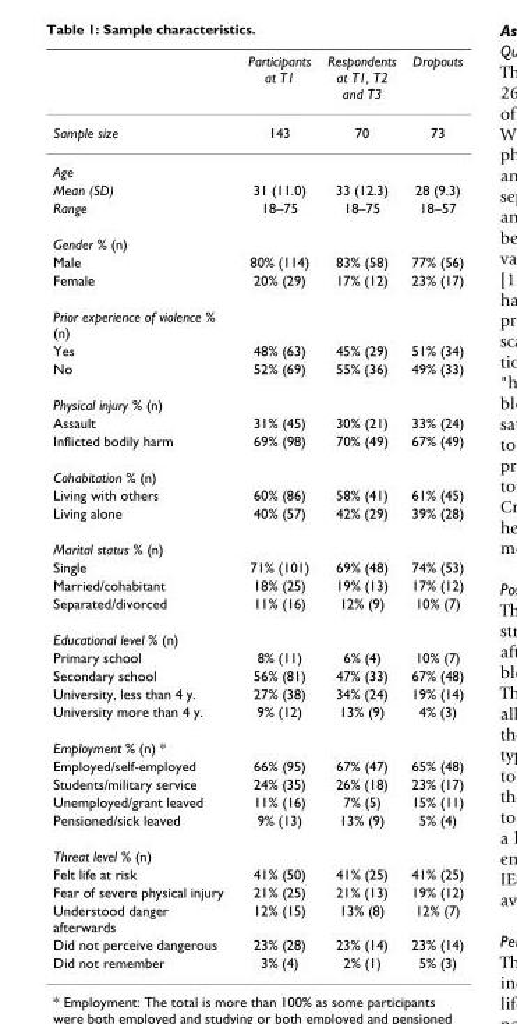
<table><thead><tr><td></td><td>Participants at T1</td><td>Respondents at T1, T2 and T3</td><td>Dropouts</td></tr></thead><tbody><tr><td>Sample size</td><td>143</td><td>70</td><td>73</td></tr><tr><td colspan="4">Age</td></tr><tr><td>Mean (SD)</td><td>31 (11.0)</td><td>33 (12.3)</td><td>28 (9.3)</td></tr><tr><td>Range</td><td>18–75</td><td>18–75</td><td>18–57</td></tr><tr><td colspan="4">Gender % (n)</td></tr><tr><td>Male</td><td>80% (114)</td><td>83% (58)</td><td>77% (56)</td></tr><tr><td>Female</td><td>20% (29)</td><td>17% (12)</td><td>23% (17)</td></tr><tr><td colspan="4">Prior experience of violence % (n)</td></tr><tr><td>Yes</td><td>48% (63)</td><td>45% (29)</td><td>51% (34)</td></tr><tr><td>No</td><td>52% (69)</td><td>55% (36)</td><td>49% (33)</td></tr><tr><td colspan="4">Physical injury % (n)</td></tr><tr><td>Assault</td><td>31% (45)</td><td>30% (21)</td><td>33% (24)</td></tr><tr><td>Inflicted bodily harm</td><td>69% (98)</td><td>70% (49)</td><td>67% (49)</td></tr><tr><td colspan="4">Cohabitation % (n)</td></tr><tr><td>Living with others</td><td>60% (86)</td><td>58% (41)</td><td>61% (45)</td></tr><tr><td>Living alone</td><td>40% (57)</td><td>42% (29)</td><td>39% (28)</td></tr><tr><td colspan="4">Marital status % (n)</td></tr><tr><td>Single</td><td>71% (101)</td><td>69% (48)</td><td>74% (53)</td></tr><tr><td>Married/cohabitant</td><td>18% (25)</td><td>19% (13)</td><td>17% (12)</td></tr><tr><td>Separated/divorced</td><td>11% (16)</td><td>12% (9)</td><td>10% (7)</td></tr><tr><td colspan="4">Educational level % (n)</td></tr><tr><td>Primary school</td><td>8% (11)</td><td>6% (4)</td><td>10% (7)</td></tr><tr><td>Secondary school</td><td>56% (81)</td><td>47% (33)</td><td>67% (48)</td></tr><tr><td>University, less than 4 y.</td><td>27% (38)</td><td>34% (24)</td><td>19% (14)</td></tr><tr><td>University more than 4 y.</td><td>9% (12)</td><td>13% (9)</td><td>4% (3)</td></tr><tr><td colspan="4">Employment % (n) *</td></tr><tr><td>Employed/self-employed</td><td>66% (95)</td><td>67% (47)</td><td>65% (48)</td></tr><tr><td>Students/military service</td><td>24% (35)</td><td>26% (18)</td><td>23% (17)</td></tr><tr><td>Unemployed/grant leaved</td><td>11% (16)</td><td>7% (5)</td><td>15% (11)</td></tr><tr><td>Pensioned/sick leaved</td><td>9% (13)</td><td>13% (9)</td><td>5% (4)</td></tr><tr><td colspan="4">Threat level % (n)</td></tr><tr><td>Felt life at risk</td><td>41% (50)</td><td>41% (25)</td><td>41% (25)</td></tr><tr><td>Fear of severe physical injury</td><td>21% (25)</td><td>21% (13)</td><td>19% (12)</td></tr><tr><td>Understood danger afterwards</td><td>12% (15)</td><td>13% (8)</td><td>12% (7)</td></tr><tr><td>Did not perceive dangerous</td><td>23% (28)</td><td>23% (14)</td><td>23% (14)</td></tr><tr><td>Did not remember</td><td>3% (4)</td><td>2% (1)</td><td>5% (3)</td></tr></tbody></table>